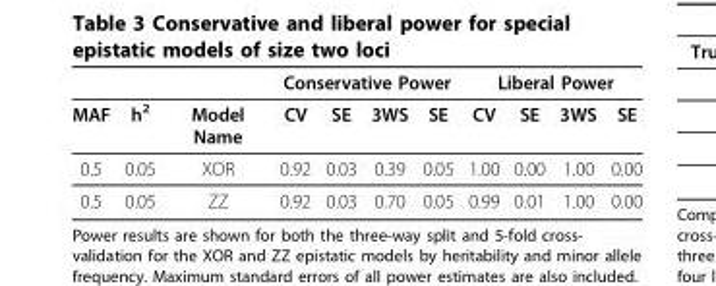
<table><thead><tr><td rowspan="2">MAF</td><td rowspan="2">h<sup>2</sup></td><td rowspan="2">Model Name</td><td colspan="4">Conservative Power</td><td colspan="4">Liberal Power</td></tr><tr><td>CV</td><td>SE</td><td>3WS</td><td>SE</td><td>CV</td><td>SE</td><td>3WS</td><td>SE</td></tr></thead><tbody><tr><td>0.5</td><td>0.05</td><td>XOR</td><td>0.92</td><td>0.03</td><td>0.39</td><td>0.05</td><td>1.00</td><td>0.00</td><td>1.00</td><td>0.00</td></tr><tr><td>0.5</td><td>0.05</td><td>ZZ</td><td>0.92</td><td>0.03</td><td>0.70</td><td>0.05</td><td>0.99</td><td>0.01</td><td>1.00</td><td>0.00</td></tr></tbody></table>